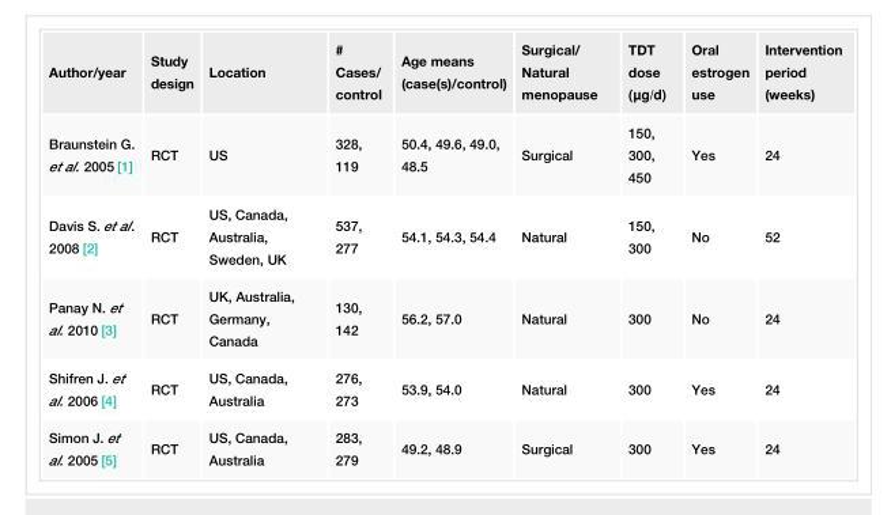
<table><tbody><tr><td>Author/year</td><td>Study design</td><td>Location</td><td># Cases/ control</td><td>Age means (case(s)/control)</td><td>Surgical/ Natural menopause</td><td>TDT dose (µg/d)</td><td>Oral estrogen use</td><td>Intervention period (weeks)</td></tr><tr><td>Braunstein G. et al. 2005 [1]</td><td>RCT</td><td>US</td><td>328, 119</td><td>50.4, 49.6, 49.0, 48.5</td><td>Surgical</td><td>150, 300, 450</td><td>Yes</td><td>24</td></tr><tr><td>Davis S. et al. 2008 [2]</td><td>RCT</td><td>US, Canada, Australia, Sweden, UK</td><td>537, 277</td><td>54.1, 54.3, 54.4</td><td>Natural</td><td>150, 300</td><td>No</td><td>52</td></tr><tr><td>Panay N. et al. 2010 [3]</td><td>RCT</td><td>UK, Australia, Germany, Canada</td><td>130, 142</td><td>56.2, 57.0</td><td>Natural</td><td>300</td><td>No</td><td>24</td></tr><tr><td>Shifren J. et al. 2006 [4]</td><td>RCT</td><td>US, Canada, Australia</td><td>276, 273</td><td>53.9, 54.0</td><td>Natural</td><td>300</td><td>Yes</td><td>24</td></tr><tr><td>Simon J. et al. 2005 [5]</td><td>RCT</td><td>US, Canada, Australia</td><td>283, 279</td><td>49.2, 48.9</td><td>Surgical</td><td>300</td><td>Yes</td><td>24</td></tr></tbody></table>